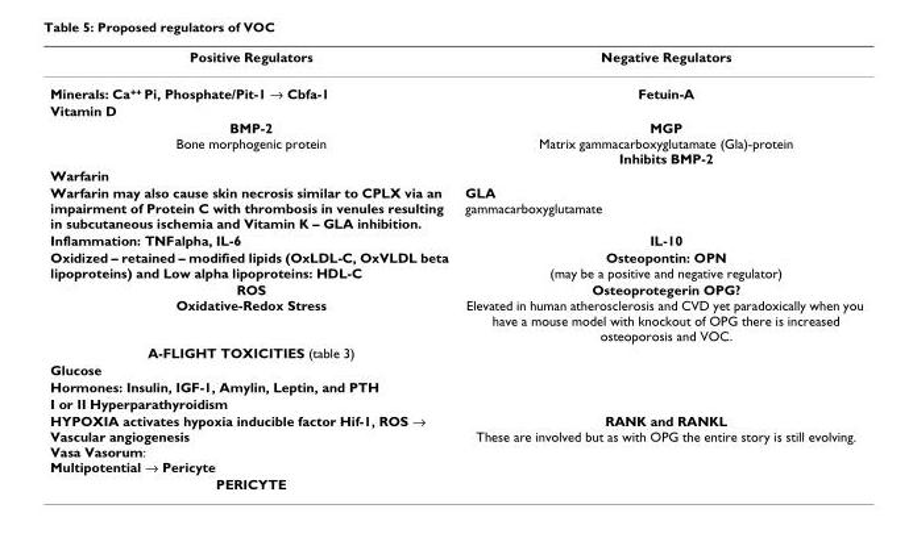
<table><thead><tr><td>Positive Regulators</td><td>Negative Regulators</td></tr></thead><tbody><tr><td>Minerals: Ca++ Pi, Phosphate/Pit-1 → Cbfa-1</td><td>Fetuin-A</td></tr><tr><td colspan="2">Vitamin D</td></tr><tr><td>BMP-2 Bone morphogenic protein</td><td>MGP Matrix gammacarboxyglutamate (Gla)-protein Inhibits BMP-2</td></tr><tr><td colspan="2">Warfarin</td></tr><tr><td>Warfarin may also cause skin necrosis similar to CPLX via an impairment of Protein C with thrombosis in venules resulting in subcutaneous ischemia and Vitamin K – GLA inhibition.</td><td>GLA gammacarboxyglutamate</td></tr><tr><td>Inflammation: TNFalpha, IL-6</td><td>IL-10</td></tr><tr><td>Oxidized – retained – modified lipids (OxLDL-C, OxVLDL beta lipoproteins) and Low alpha lipoproteins: HDL-C</td><td>Osteopontin: OPN (may be a positive and negative regulator)</td></tr><tr><td>ROS Oxidative-Redox Stress</td><td>Osteoprotegerin OPG? Elevated in human atherosclerosis and CVD yet paradoxically when you have a mouse model with knockout of OPG there is increased osteoporosis and VOC.</td></tr><tr><td colspan="2">A-FLIGHT TOXICITIES (table 3)</td></tr><tr><td colspan="2">Glucose</td></tr><tr><td colspan="2">Hormones: Insulin, IGF-1, Amylin, Leptin, and PTH</td></tr><tr><td colspan="2">I or II Hyperparathyroidism</td></tr><tr><td>HYPOXIA activates hypoxia inducible factor Hif-1, ROS → Vascular angiogenesis Vasa Vasorum: Multipotential → Pericyte</td><td>RANK and RANKL These are involved but as with OPG the entire story is still evolving.</td></tr><tr><td>PERICYTE</td><td></td></tr></tbody></table>